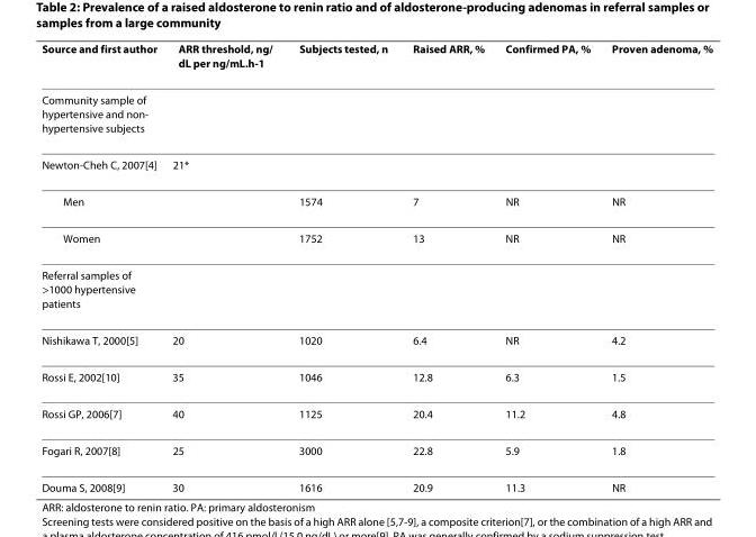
<table><thead><tr><td>Source and first author</td><td>ARR threshold, ng/ dL per ng/mL.h<sup>-1</sup></td><td>Subjects tested, n</td><td>Raised ARR, %</td><td>Confirmed PA, %</td><td>Proven adenoma, %</td></tr></thead><tbody><tr><td colspan="6">Community sample of hypertensive and non- hypertensive subjects</td></tr><tr><td>Newton-Cheh C, 2007[4]</td><td>21*</td><td></td><td></td><td></td><td></td></tr><tr><td>Men</td><td></td><td>1574</td><td>7</td><td>NR</td><td>NR</td></tr><tr><td>Women</td><td></td><td>1752</td><td>13</td><td>NR</td><td>NR</td></tr><tr><td colspan="6">Referral samples of &gt;1000 hypertensive patients</td></tr><tr><td>Nishikawa T, 2000[5]</td><td>20</td><td>1020</td><td>6.4</td><td>NR</td><td>4.2</td></tr><tr><td>Rossi E, 2002[10]</td><td>35</td><td>1046</td><td>12.8</td><td>6.3</td><td>1.5</td></tr><tr><td>Rossi GP, 2006[7]</td><td>40</td><td>1125</td><td>20.4</td><td>11.2</td><td>4.8</td></tr><tr><td>Fogari R, 2007[8]</td><td>25</td><td>3000</td><td>22.8</td><td>5.9</td><td>1.8</td></tr><tr><td>Douma S, 2008[9]</td><td>30</td><td>1616</td><td>20.9</td><td>11.3</td><td>NR</td></tr></tbody></table>